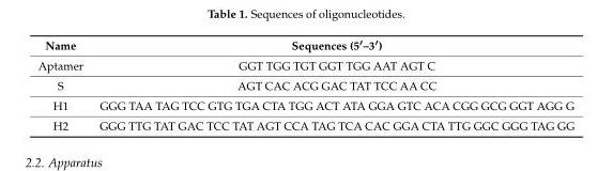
<table><thead><tr><td>Name</td><td>Sequences (5′–3′)</td></tr></thead><tbody><tr><td>Aptamer</td><td>GGT TGG TGT GGT TGG AAT AGT C</td></tr><tr><td>S</td><td>AGT CAC ACG GAC TAT TCC AA CC</td></tr><tr><td>H1</td><td>GGG TAA TAG TCC GTG TGA CTA TGG ACT ATA GGA GTC ACA CGG GCG GGT AGG G</td></tr><tr><td>H2</td><td>GGG TTG TAT GAC TCC TAT AGT CCA TAG TCA CAC GGA CTA TTG GGC GGG TAG GG</td></tr></tbody></table>